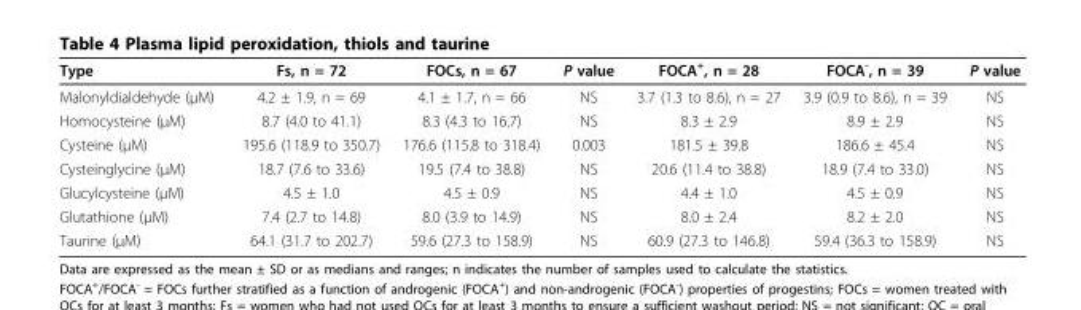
<table><thead><tr><td>Type</td><td>Fs, n = 72</td><td>FOCs, n = 67</td><td>P value</td><td>FOCA<sup>+</sup>, n = 28</td><td>FOCA<sup>-</sup>, n = 39</td><td>P value</td></tr></thead><tbody><tr><td>Malonyldialdehyde (μM)</td><td>4.2 ± 1.9, n = 69</td><td>4.1 ± 1.7, n = 66</td><td>NS</td><td>3.7 (1.3 to 8.6), n = 27</td><td>3.9 (0.9 to 8.6), n = 39</td><td>NS</td></tr><tr><td>Homocysteine (μM)</td><td>8.7 (4.0 to 41.1)</td><td>8.3 (4.3 to 16.7)</td><td>NS</td><td>8.3 ± 2.9</td><td>8.9 ± 2.9</td><td>NS</td></tr><tr><td>Cysteine (μM)</td><td>195.6 (118.9 to 350.7)</td><td>176.6 (115.8 to 318.4)</td><td>0.003</td><td>181.5 ± 39.8</td><td>186.6 ± 45.4</td><td>NS</td></tr><tr><td>Cysteinglycine (μM)</td><td>18.7 (7.6 to 33.6)</td><td>19.5 (7.4 to 38.8)</td><td>NS</td><td>20.6 (11.4 to 38.8)</td><td>18.9 (7.4 to 33.0)</td><td>NS</td></tr><tr><td>Glucylcysteine (μM)</td><td>4.5 ± 1.0</td><td>4.5 ± 0.9</td><td>NS</td><td>4.4 ± 1.0</td><td>4.5 ± 0.9</td><td>NS</td></tr><tr><td>Glutathione (μM)</td><td>7.4 (2.7 to 14.8)</td><td>8.0 (3.9 to 14.9)</td><td>NS</td><td>8.0 ± 2.4</td><td>8.2 ± 2.0</td><td>NS</td></tr><tr><td>Taurine (μM)</td><td>64.1 (31.7 to 202.7)</td><td>59.6 (27.3 to 158.9)</td><td>NS</td><td>60.9 (27.3 to 146.8)</td><td>59.4 (36.3 to 158.9)</td><td>NS</td></tr></tbody></table>